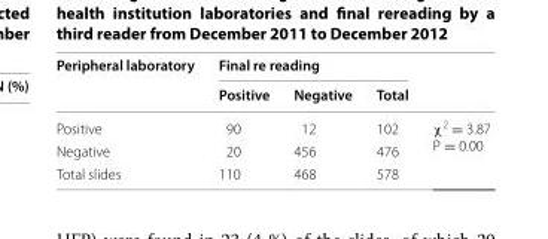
<table><thead><tr><td rowspan="2">Peripheral laboratory</td><td colspan="3">Final re reading</td><td rowspan="2"></td></tr><tr><td>Positive</td><td>Negative</td><td>Total</td></tr></thead><tbody><tr><td>Positive</td><td>90</td><td>12</td><td>102</td><td rowspan="3">χ<sup>2</sup> = 3.87 P = 0.00</td></tr><tr><td>Negative</td><td>20</td><td>456</td><td>476</td></tr><tr><td>Total slides</td><td>110</td><td>468</td><td>578</td></tr></tbody></table>